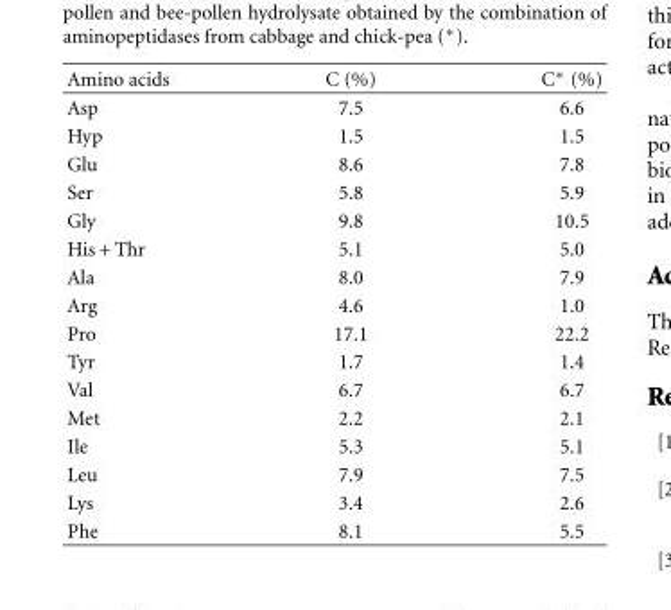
<table><thead><tr><td>Amino acids</td><td>C (%)</td><td>C∗ (%)</td></tr></thead><tbody><tr><td>Asp</td><td>7.5</td><td>6.6</td></tr><tr><td>Hyp</td><td>1.5</td><td>1.5</td></tr><tr><td>Glu</td><td>8.6</td><td>7.8</td></tr><tr><td>Ser</td><td>5.8</td><td>5.9</td></tr><tr><td>Gly</td><td>9.8</td><td>10.5</td></tr><tr><td>His + Thr</td><td>5.1</td><td>5.0</td></tr><tr><td>Ala</td><td>8.0</td><td>7.9</td></tr><tr><td>Arg</td><td>4.6</td><td>1.0</td></tr><tr><td>Pro</td><td>17.1</td><td>22.2</td></tr><tr><td>Tyr</td><td>1.7</td><td>1.4</td></tr><tr><td>Val</td><td>6.7</td><td>6.7</td></tr><tr><td>Met</td><td>2.2</td><td>2.1</td></tr><tr><td>Ile</td><td>5.3</td><td>5.1</td></tr><tr><td>Leu</td><td>7.9</td><td>7.5</td></tr><tr><td>Lys</td><td>3.4</td><td>2.6</td></tr><tr><td>Phe</td><td>8.1</td><td>5.5</td></tr></tbody></table>